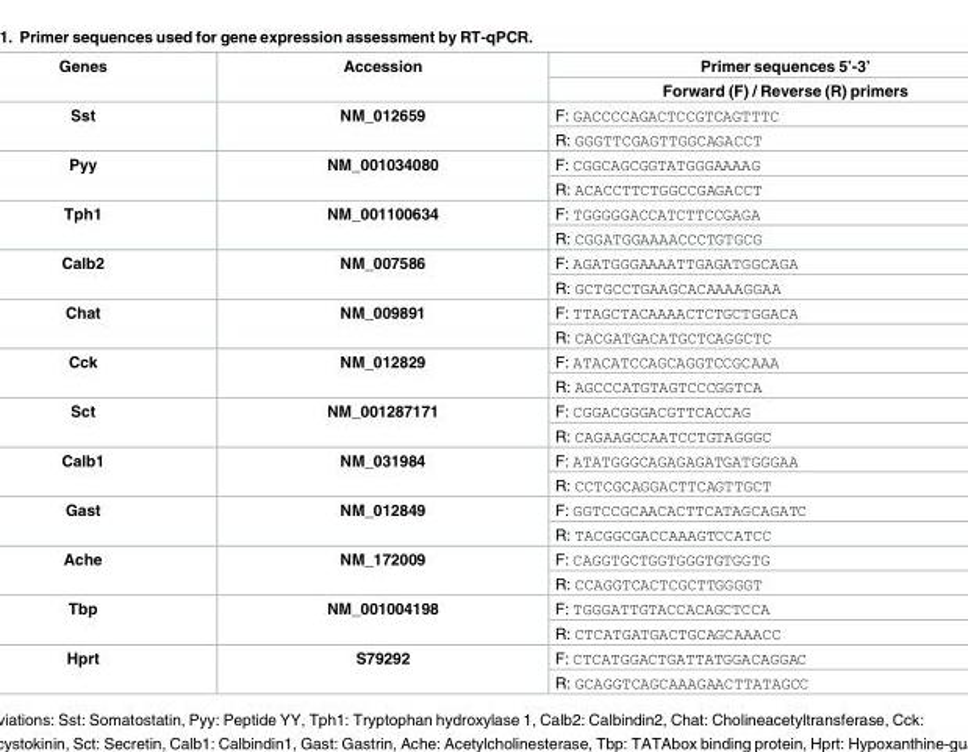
<table><thead><tr><td rowspan="2">Genes</td><td rowspan="2">Accession</td><td rowspan="2">Primer sequences 5’-3’ Forward (F) / Reverse (R) primers</td></tr><tr></tr></thead><tbody><tr><td rowspan="2">Sst</td><td rowspan="2">NM_012659</td><td>F: GACCCCAGACTCCGTCAGTTTC</td></tr><tr><td>R: GGGTTCGAGTTGGCAGACCT</td></tr><tr><td rowspan="2">Pyy</td><td rowspan="2">NM_001034080</td><td>F: CGGCAGCGGTATGGGAAAAG</td></tr><tr><td>R: ACACCTTCTGGCCGAGACCT</td></tr><tr><td rowspan="2">Tph1</td><td rowspan="2">NM_001100634</td><td>F: TGGGGGACCATCTTCCGAGA</td></tr><tr><td>R: CGGATGGAAAACCCTGTGCG</td></tr><tr><td rowspan="2">Calb2</td><td rowspan="2">NM_007586</td><td>F: AGATGGGAAAATTGAGATGGCAGA</td></tr><tr><td>R: GCTGCCTGAAGCACAAAAGGAA</td></tr><tr><td rowspan="2">Chat</td><td rowspan="2">NM_009891</td><td>F: TTAGCTACAAAACTCTGCTGGACA</td></tr><tr><td>R: CACGATGACATGCTCAGGCTC</td></tr><tr><td rowspan="2">Cck</td><td rowspan="2">NM_012829</td><td>F: ATACATCCAGCAGGTCCGCAAA</td></tr><tr><td>R: AGCCCATGTAGTCCCGGTCA</td></tr><tr><td rowspan="2">Sct</td><td rowspan="2">NM_001287171</td><td>F: CGGACGGGACGTTCACCAG</td></tr><tr><td>R: CAGAAGCCAATCCTGTAGGGC</td></tr><tr><td rowspan="2">Calb1</td><td rowspan="2">NM_031984</td><td>F: ATATGGGCAGAGAGATGATGGGAA</td></tr><tr><td>R: CCTCGCAGGACTTCAGTTGCT</td></tr><tr><td rowspan="2">Gast</td><td rowspan="2">NM_012849</td><td>F: GGTCCGCAACACTTCATAGCAGATC</td></tr><tr><td>R: TACGGCGACCAAAGTCCATCC</td></tr><tr><td rowspan="2">Ache</td><td rowspan="2">NM_172009</td><td>F: CAGGTGCTGGTGGGTGTGGTG</td></tr><tr><td>R: CCAGGTCACTCGCTTGGGGT</td></tr><tr><td rowspan="2">Tbp</td><td rowspan="2">NM_001004198</td><td>F: TGGGATTGTACCACAGCTCCA</td></tr><tr><td>R: CTCATGATGACTGCAGCAAACC</td></tr><tr><td rowspan="2">Hprt</td><td rowspan="2">S79292</td><td>F: CTCATGGACTGATTATGGACAGGAC</td></tr><tr><td>R: GCAGGTCAGCAAAGAACTTATAGCC</td></tr></tbody></table>